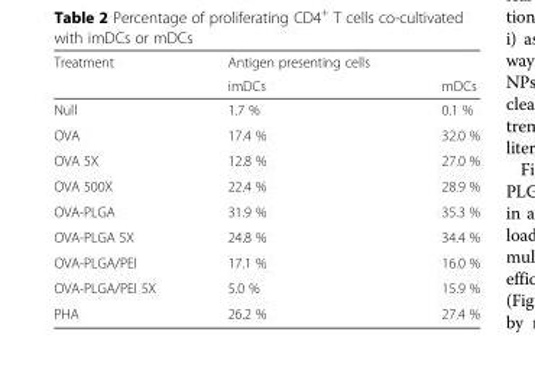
<table><thead><tr><td rowspan="2">Treatment</td><td rowspan="2">Antigen presenting cells imDCs</td><td rowspan="2">mDCs</td></tr><tr></tr></thead><tbody><tr><td>Null</td><td>1.7 %</td><td>0.1 %</td></tr><tr><td>OVA</td><td>17.4 %</td><td>32.0 %</td></tr><tr><td>OVA 5X</td><td>12.8 %</td><td>27.0 %</td></tr><tr><td>OVA 500X</td><td>22.4 %</td><td>28.9 %</td></tr><tr><td>OVA-PLGA</td><td>31.9 %</td><td>35.3 %</td></tr><tr><td>OVA-PLGA 5X</td><td>24.8 %</td><td>34.4 %</td></tr><tr><td>OVA-PLGA/PEI</td><td>17.1 %</td><td>16.0 %</td></tr><tr><td>OVA-PLGA/PEI 5X</td><td>5.0 %</td><td>15.9 %</td></tr><tr><td>PHA</td><td>26.2 %</td><td>27.4 %</td></tr></tbody></table>